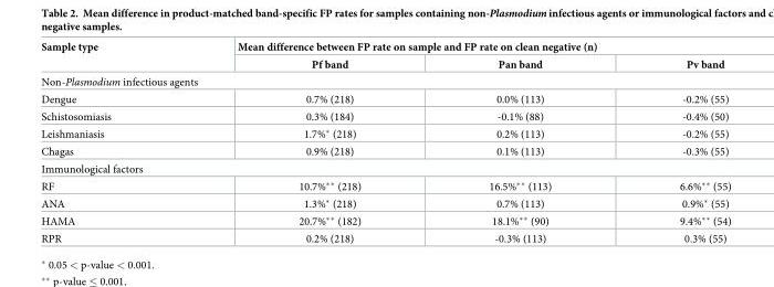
<table><thead><tr><td rowspan="2">Sample type</td><td colspan="3">Mean difference between FP rate on sample and FP rate on clean negative (n)</td></tr><tr><td>Pf band</td><td>Pan band</td><td>Pv band</td></tr></thead><tbody><tr><td colspan="4">Non-Plasmodium infectious agents</td></tr><tr><td>Dengue</td><td>0.7% (218)</td><td>0.0% (113)</td><td>-0.2% (55)</td></tr><tr><td>Schistosomiasis</td><td>0.3% (184)</td><td>-0.1% (88)</td><td>-0.4% (50)</td></tr><tr><td>Leishmaniasis</td><td>1.7%* (218)</td><td>0.2% (113)</td><td>-0.2% (55)</td></tr><tr><td>Chagas</td><td>0.9% (218)</td><td>0.1% (113)</td><td>-0.3% (55)</td></tr><tr><td colspan="4">Immunological factors</td></tr><tr><td>RF</td><td>10.7%** (218)</td><td>16.5%** (113)</td><td>6.6%** (55)</td></tr><tr><td>ANA</td><td>1.3%* (218)</td><td>0.7% (113)</td><td>0.9%* (55)</td></tr><tr><td>HAMA</td><td>20.7%** (182)</td><td>18.1%** (90)</td><td>9.4%** (54)</td></tr><tr><td>RPR</td><td>0.2% (218)</td><td>-0.3% (113)</td><td>0.3% (55)</td></tr></tbody></table>